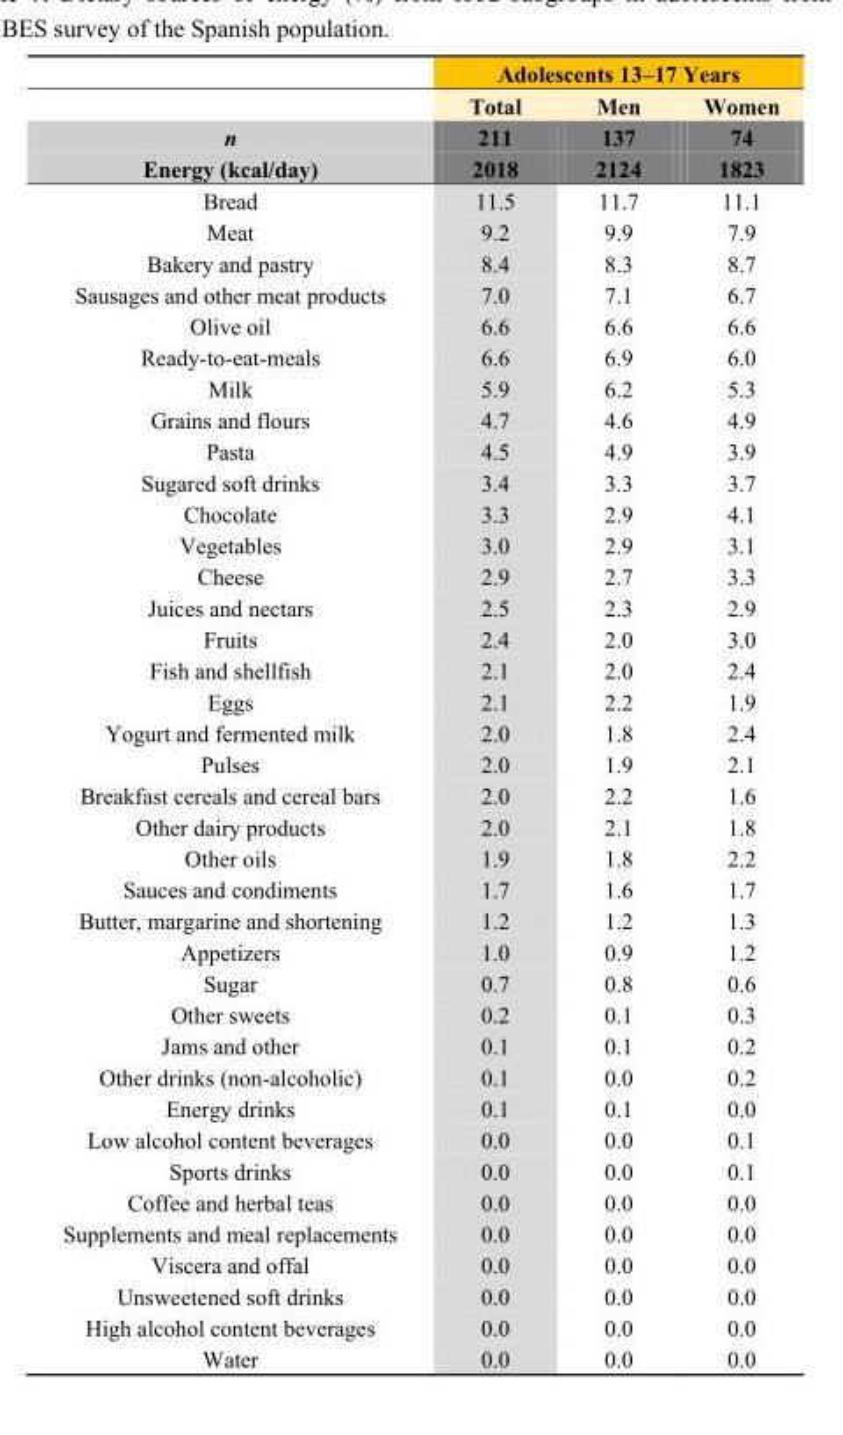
<table><thead><tr><td rowspan="4">n Energy (kcal/day)</td><td colspan="3">Adolescents 13–17 Years</td></tr><tr><td rowspan="3">Total 211 2018</td><td rowspan="3">Men 137 2124</td><td rowspan="3">Women 74 1823</td></tr><tr></tr><tr></tr></thead><tbody><tr><td>Bread</td><td>11.5</td><td>11.7</td><td>11.1</td></tr><tr><td>Meat</td><td>9.2</td><td>9.9</td><td>7.9</td></tr><tr><td>Bakery and pastry</td><td>8.4</td><td>8.3</td><td>8.7</td></tr><tr><td>Sausages and other meat products</td><td>7.0</td><td>7.1</td><td>6.7</td></tr><tr><td>Olive oil</td><td>6.6</td><td>6.6</td><td>6.6</td></tr><tr><td>Ready-to-eat-meals</td><td>6.6</td><td>6.9</td><td>6.0</td></tr><tr><td>Milk</td><td>5.9</td><td>6.2</td><td>5.3</td></tr><tr><td>Grains and flours</td><td>4.7</td><td>4.6</td><td>4.9</td></tr><tr><td>Pasta</td><td>4.5</td><td>4.9</td><td>3.9</td></tr><tr><td>Sugared soft drinks</td><td>3.4</td><td>3.3</td><td>3.7</td></tr><tr><td>Chocolate</td><td>3.3</td><td>2.9</td><td>4.1</td></tr><tr><td>Vegetables</td><td>3.0</td><td>2.9</td><td>3.1</td></tr><tr><td>Cheese</td><td>2.9</td><td>2.7</td><td>3.3</td></tr><tr><td>Juices and nectars</td><td>2.5</td><td>2.3</td><td>2.9</td></tr><tr><td>Fruits</td><td>2.4</td><td>2.0</td><td>3.0</td></tr><tr><td>Fish and shellfish</td><td>2.1</td><td>2.0</td><td>2.4</td></tr><tr><td>Eggs</td><td>2.1</td><td>2.2</td><td>1.9</td></tr><tr><td>Yogurt and fermented milk</td><td>2.0</td><td>1.8</td><td>2.4</td></tr><tr><td>Pulses</td><td>2.0</td><td>1.9</td><td>2.1</td></tr><tr><td>Breakfast cereals and cereal bars</td><td>2.0</td><td>2.2</td><td>1.6</td></tr><tr><td>Other dairy products</td><td>2.0</td><td>2.1</td><td>1.8</td></tr><tr><td>Other oils</td><td>1.9</td><td>1.8</td><td>2.2</td></tr><tr><td>Sauces and condiments</td><td>1.7</td><td>1.6</td><td>1.7</td></tr><tr><td>Butter, margarine and shortening</td><td>1.2</td><td>1.2</td><td>1.3</td></tr><tr><td>Appetizers</td><td>1.0</td><td>0.9</td><td>1.2</td></tr><tr><td>Sugar</td><td>0.7</td><td>0.8</td><td>0.6</td></tr><tr><td>Other sweets</td><td>0.2</td><td>0.1</td><td>0.3</td></tr><tr><td>Jams and other</td><td>0.1</td><td>0.1</td><td>0.2</td></tr><tr><td>Other drinks (non-alcoholic)</td><td>0.1</td><td>0.0</td><td>0.2</td></tr><tr><td>Energy drinks</td><td>0.1</td><td>0.1</td><td>0.0</td></tr><tr><td>Low alcohol content beverages</td><td>0.0</td><td>0.0</td><td>0.1</td></tr><tr><td>Sports drinks</td><td>0.0</td><td>0.0</td><td>0.1</td></tr><tr><td>Coffee and herbal teas</td><td>0.0</td><td>0.0</td><td>0.0</td></tr><tr><td>Supplements and meal replacements</td><td>0.0</td><td>0.0</td><td>0.0</td></tr><tr><td>Viscera and offal</td><td>0.0</td><td>0.0</td><td>0.0</td></tr><tr><td>Unsweetened soft drinks</td><td>0.0</td><td>0.0</td><td>0.0</td></tr><tr><td>High alcohol content beverages</td><td>0.0</td><td>0.0</td><td>0.0</td></tr><tr><td>Water</td><td>0.0</td><td>0.0</td><td>0.0</td></tr></tbody></table>